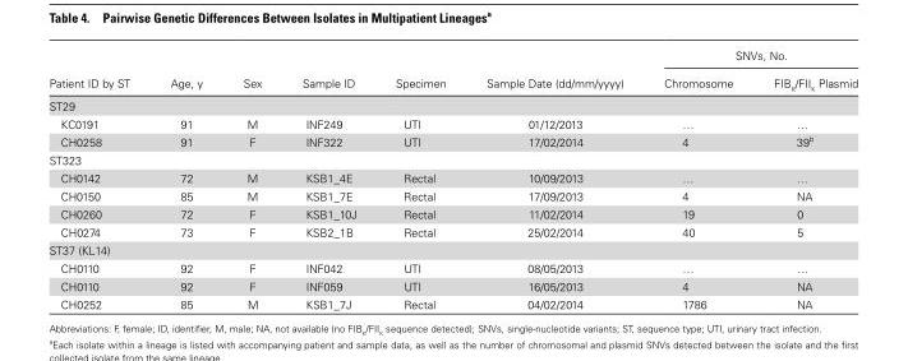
<table><thead><tr><td rowspan="2">Patient ID by ST</td><td rowspan="2">Age, y</td><td rowspan="2">Sex</td><td rowspan="2">Sample ID</td><td rowspan="2">Specimen</td><td rowspan="2">Sample Date (dd/mm/yyyy)</td><td colspan="2">SNVs, No.</td></tr><tr><td>Chromosome</td><td>FIB<sub>K</sub>/FII<sub>K</sub> Plasmid</td></tr></thead><tbody><tr><td colspan="8">ST29</td></tr><tr><td>KC0191</td><td>91</td><td>M</td><td>INF249</td><td>UTI</td><td>01/12/2013</td><td>…</td><td>…</td></tr><tr><td>CH0258</td><td>91</td><td>F</td><td>INF322</td><td>UTI</td><td>17/02/2014</td><td>4</td><td>39<sup>b</sup></td></tr><tr><td colspan="8">ST323</td></tr><tr><td>CH0142</td><td>72</td><td>M</td><td>KSB1_4E</td><td>Rectal</td><td>10/09/2013</td><td>…</td><td>…</td></tr><tr><td>CH0150</td><td>85</td><td>M</td><td>KSB1_7E</td><td>Rectal</td><td>17/09/2013</td><td>4</td><td>NA</td></tr><tr><td>CH0260</td><td>72</td><td>F</td><td>KSB1_10J</td><td>Rectal</td><td>11/02/2014</td><td>19</td><td>0</td></tr><tr><td>CH0274</td><td>73</td><td>F</td><td>KSB2_1B</td><td>Rectal</td><td>25/02/2014</td><td>40</td><td>5</td></tr><tr><td colspan="8">ST37 (KL14)</td></tr><tr><td>CH0110</td><td>92</td><td>F</td><td>INF042</td><td>UTI</td><td>08/05/2013</td><td>…</td><td>…</td></tr><tr><td>CH0110</td><td>92</td><td>F</td><td>INF059</td><td>UTI</td><td>16/05/2013</td><td>4</td><td>NA</td></tr><tr><td>CH0252</td><td>85</td><td>M</td><td>KSB1_7J</td><td>Rectal</td><td>04/02/2014</td><td>1786</td><td>NA</td></tr></tbody></table>